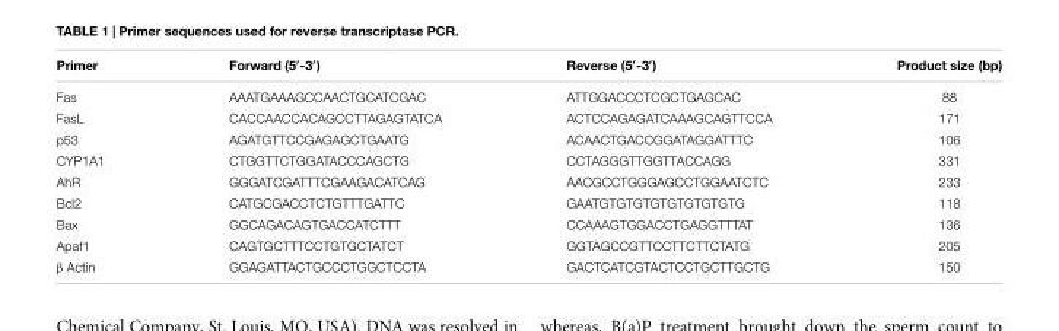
<table><thead><tr><td>Primer</td><td>Forward (5′-3′)</td><td>Reverse (5′-3′)</td><td>Product size (bp)</td></tr></thead><tbody><tr><td>Fas</td><td>AAATGAAAGCCAACTGCATCGAC</td><td>ATTGGACCCTCGCTGAGCAC</td><td>88</td></tr><tr><td>FasL</td><td>CACCAACCACAGCCTTAGAGTATCA</td><td>ACTCCAGAGATCAAAGCAGTTCCA</td><td>171</td></tr><tr><td>p53</td><td>AGATGTTCCGAGAGCTGAATG</td><td>ACAACTGACCGGATAGGATTTC</td><td>106</td></tr><tr><td>CYP1A1</td><td>CTGGTTCTGGATACCCAGCTG</td><td>CCTAGGGTTGGTTACCAGG</td><td>331</td></tr><tr><td>AhR</td><td>GGGATCGATTTCGAAGACATCAG</td><td>AACGCCTGGGAGCCTGGAATCTC</td><td>233</td></tr><tr><td>Bcl2</td><td>CATGCGACCTCTGTTTGATTC</td><td>GAATGTGTGTGTGTGTGTGTG</td><td>118</td></tr><tr><td>Bax</td><td>GGCAGACAGTGACCATCTTT</td><td>CCAAAGTGGACCTGAGGTTTAT</td><td>136</td></tr><tr><td>Apaf1</td><td>CAGTGCTTTCCTGTGCTATCT</td><td>GGTAGCCGTTCCTTCTTCTATG</td><td>205</td></tr><tr><td>β Actin</td><td>GGAGATTACTGCCCTGGCTCCTA</td><td>GACTCATCGTACTCCTGCTTGCTG</td><td>150</td></tr></tbody></table>